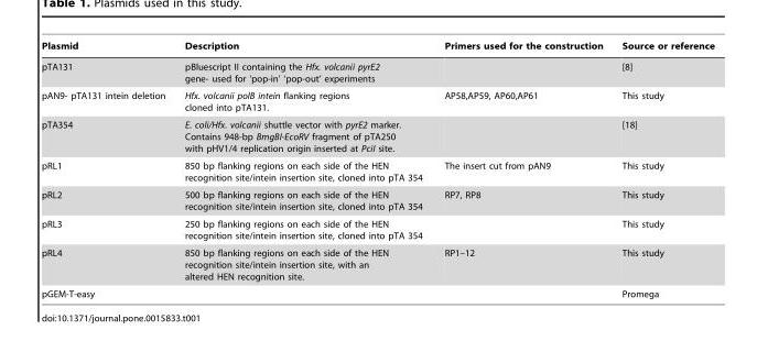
<table><thead><tr><td>Plasmid</td><td>Description</td><td>Primers used for the construction</td><td>Source or reference</td></tr></thead><tbody><tr><td>pTA131</td><td>pBluescript II containing the Hfx. volcanii pyrE2 gene- used for ‘pop-in’ ‘pop-out’ experiments</td><td></td><td>[8]</td></tr><tr><td>pAN9- pTA131 intein deletion</td><td>Hfx. volcanii polB intein flanking regions cloned into pTA131.</td><td>AP58,AP59, AP60,AP61</td><td>This study</td></tr><tr><td>pTA354</td><td>E. coli/Hfx. volcanii shuttle vector with pyrE2 marker. Contains 948-bp BmgBI-EcoRV fragment of pTA250 with pHV1/4 replication origin inserted at PciI site.</td><td></td><td>[18]</td></tr><tr><td>pRL1</td><td>850 bp flanking regions on each side of the HEN recognition site/intein insertion site, cloned into pTA 354</td><td>The insert cut from pAN9</td><td>This study</td></tr><tr><td>pRL2</td><td>500 bp flanking regions on each side of the HEN recognition site/intein insertion site, cloned into pTA 354</td><td>RP7, RP8</td><td>This study</td></tr><tr><td>pRL3</td><td>250 bp flanking regions on each side of the HEN recognition site/intein insertion site, cloned into pTA 354</td><td></td><td>This study</td></tr><tr><td>pRL4</td><td>850 bp flanking regions on each side of the HEN recognition site/intein insertion site, with an altered HEN recognition site.</td><td>RP1–12</td><td>This study</td></tr><tr><td>pGEM-T-easy</td><td></td><td></td><td>Promega</td></tr></tbody></table>